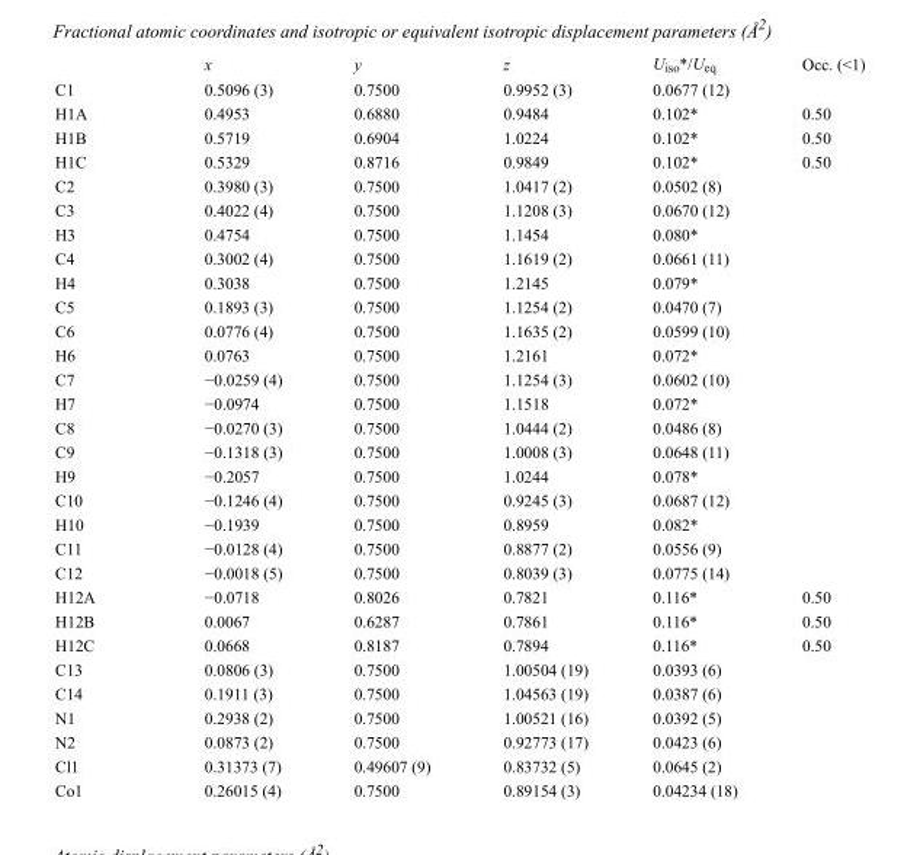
<table><thead><tr><td></td><td>x</td><td>y</td><td>z</td><td>U<sub>iso</sub>*/U<sub>eq</sub></td><td>Occ. (&lt;1)</td></tr></thead><tbody><tr><td>C1</td><td>0.5096 (3)</td><td>0.7500</td><td>0.9952 (3)</td><td>0.0677 (12)</td><td></td></tr><tr><td>H1A</td><td>0.4953</td><td>0.6880</td><td>0.9484</td><td>0.102*</td><td>0.50</td></tr><tr><td>H1B</td><td>0.5719</td><td>0.6904</td><td>1.0224</td><td>0.102*</td><td>0.50</td></tr><tr><td>H1C</td><td>0.5329</td><td>0.8716</td><td>0.9849</td><td>0.102*</td><td>0.50</td></tr><tr><td>C2</td><td>0.3980 (3)</td><td>0.7500</td><td>1.0417 (2)</td><td>0.0502 (8)</td><td></td></tr><tr><td>C3</td><td>0.4022 (4)</td><td>0.7500</td><td>1.1208 (3)</td><td>0.0670 (12)</td><td></td></tr><tr><td>H3</td><td>0.4754</td><td>0.7500</td><td>1.1454</td><td>0.080*</td><td></td></tr><tr><td>C4</td><td>0.3002 (4)</td><td>0.7500</td><td>1.1619 (2)</td><td>0.0661 (11)</td><td></td></tr><tr><td>H4</td><td>0.3038</td><td>0.7500</td><td>1.2145</td><td>0.079*</td><td></td></tr><tr><td>C5</td><td>0.1893 (3)</td><td>0.7500</td><td>1.1254 (2)</td><td>0.0470 (7)</td><td></td></tr><tr><td>C6</td><td>0.0776 (4)</td><td>0.7500</td><td>1.1635 (2)</td><td>0.0599 (10)</td><td></td></tr><tr><td>H6</td><td>0.0763</td><td>0.7500</td><td>1.2161</td><td>0.072*</td><td></td></tr><tr><td>C7</td><td>−0.0259 (4)</td><td>0.7500</td><td>1.1254 (3)</td><td>0.0602 (10)</td><td></td></tr><tr><td>H7</td><td>−0.0974</td><td>0.7500</td><td>1.1518</td><td>0.072*</td><td></td></tr><tr><td>C8</td><td>−0.0270 (3)</td><td>0.7500</td><td>1.0444 (2)</td><td>0.0486 (8)</td><td></td></tr><tr><td>C9</td><td>−0.1318 (3)</td><td>0.7500</td><td>1.0008 (3)</td><td>0.0648 (11)</td><td></td></tr><tr><td>H9</td><td>−0.2057</td><td>0.7500</td><td>1.0244</td><td>0.078*</td><td></td></tr><tr><td>C10</td><td>−0.1246 (4)</td><td>0.7500</td><td>0.9245 (3)</td><td>0.0687 (12)</td><td></td></tr><tr><td>H10</td><td>−0.1939</td><td>0.7500</td><td>0.8959</td><td>0.082*</td><td></td></tr><tr><td>C11</td><td>−0.0128 (4)</td><td>0.7500</td><td>0.8877 (2)</td><td>0.0556 (9)</td><td></td></tr><tr><td>C12</td><td>−0.0018 (5)</td><td>0.7500</td><td>0.8039 (3)</td><td>0.0775 (14)</td><td></td></tr><tr><td>H12A</td><td>−0.0718</td><td>0.8026</td><td>0.7821</td><td>0.116*</td><td>0.50</td></tr><tr><td>H12B</td><td>0.0067</td><td>0.6287</td><td>0.7861</td><td>0.116*</td><td>0.50</td></tr><tr><td>H12C</td><td>0.0668</td><td>0.8187</td><td>0.7894</td><td>0.116*</td><td>0.50</td></tr><tr><td>C13</td><td>0.0806 (3)</td><td>0.7500</td><td>1.00504 (19)</td><td>0.0393 (6)</td><td></td></tr><tr><td>C14</td><td>0.1911 (3)</td><td>0.7500</td><td>1.04563 (19)</td><td>0.0387 (6)</td><td></td></tr><tr><td>N1</td><td>0.2938 (2)</td><td>0.7500</td><td>1.00521 (16)</td><td>0.0392 (5)</td><td></td></tr><tr><td>N2</td><td>0.0873 (2)</td><td>0.7500</td><td>0.92773 (17)</td><td>0.0423 (6)</td><td></td></tr><tr><td>Cl1</td><td>0.31373 (7)</td><td>0.49607 (9)</td><td>0.83732 (5)</td><td>0.0645 (2)</td><td></td></tr><tr><td>Co1</td><td>0.26015 (4)</td><td>0.7500</td><td>0.89154 (3)</td><td>0.04234 (18)</td><td></td></tr></tbody></table>